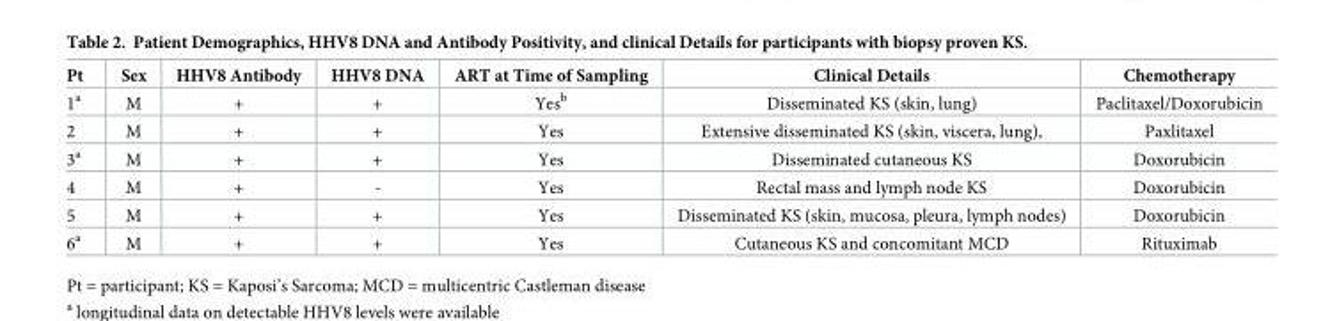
<table><thead><tr><td>Pt</td><td>Sex</td><td>HHV8 Antibody</td><td>HHV8 DNA</td><td>ART at Time of Sampling</td><td>Clinical Details</td><td>Chemotherapy</td></tr></thead><tbody><tr><td>1<sup>a</sup></td><td>M</td><td>+</td><td>+</td><td>Yes<sup>b</sup></td><td>Disseminated KS (skin, lung)</td><td>Paclitaxel/Doxorubicin</td></tr><tr><td>2</td><td>M</td><td>+</td><td>+</td><td>Yes</td><td>Extensive disseminated KS (skin, viscera, lung),</td><td>Paxlitaxel</td></tr><tr><td>3<sup>a</sup></td><td>M</td><td>+</td><td>+</td><td>Yes</td><td>Disseminated cutaneous KS</td><td>Doxorubicin</td></tr><tr><td>4</td><td>M</td><td>+</td><td>-</td><td>Yes</td><td>Rectal mass and lymph node KS</td><td>Doxorubicin</td></tr><tr><td>5</td><td>M</td><td>+</td><td>+</td><td>Yes</td><td>Disseminated KS (skin, mucosa, pleura, lymph nodes)</td><td>Doxorubicin</td></tr><tr><td>6<sup>a</sup></td><td>M</td><td>+</td><td>+</td><td>Yes</td><td>Cutaneous KS and concomitant MCD</td><td>Rituximab</td></tr></tbody></table>